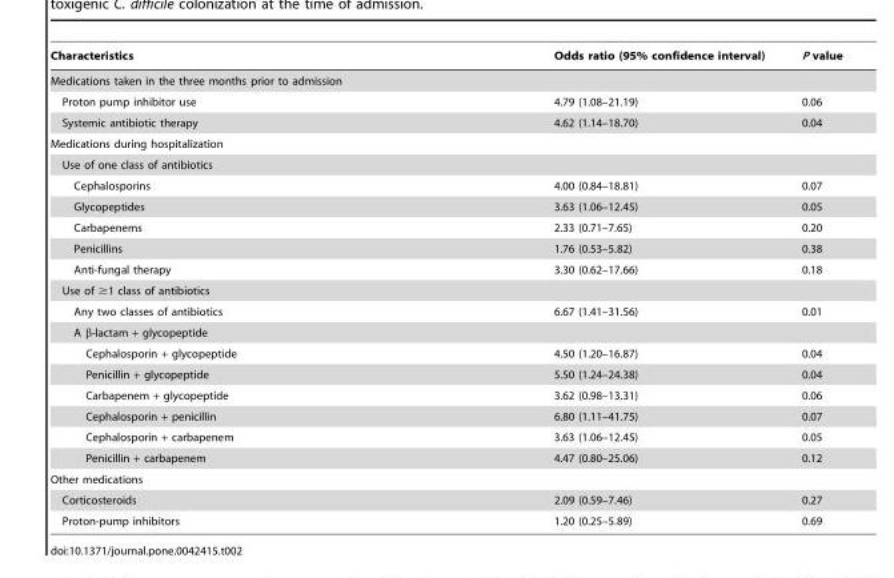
<table><thead><tr><td>Characteristics</td><td>Odds ratio (95% confidence interval)</td><td>P value</td></tr></thead><tbody><tr><td colspan="3">Medications taken in the three months prior to admission</td></tr><tr><td>Proton pump inhibitor use</td><td>4.79 (1.08–21.19)</td><td>0.06</td></tr><tr><td>Systemic antibiotic therapy</td><td>4.62 (1.14–18.70)</td><td>0.04</td></tr><tr><td colspan="3">Medications during hospitalization</td></tr><tr><td colspan="3">Use of one class of antibiotics</td></tr><tr><td>Cephalosporins</td><td>4.00 (0.84–18.81)</td><td>0.07</td></tr><tr><td>Glycopeptides</td><td>3.63 (1.06–12.45)</td><td>0.05</td></tr><tr><td>Carbapenems</td><td>2.33 (0.71–7.65)</td><td>0.20</td></tr><tr><td>Penicillins</td><td>1.76 (0.53–5.82)</td><td>0.38</td></tr><tr><td>Anti-fungal therapy</td><td>3.30 (0.62–17.66)</td><td>0.18</td></tr><tr><td colspan="3">Use of ≥1 class of antibiotics</td></tr><tr><td>Any two classes of antibiotics</td><td>6.67 (1.41–31.56)</td><td>0.01</td></tr><tr><td colspan="3">A β-lactam + glycopeptide</td></tr><tr><td>Cephalosporin + glycopeptide</td><td>4.50 (1.20–16.87)</td><td>0.04</td></tr><tr><td>Penicillin + glycopeptide</td><td>5.50 (1.24–24.38)</td><td>0.04</td></tr><tr><td>Carbapenem + glycopeptide</td><td>3.62 (0.98–13.31)</td><td>0.06</td></tr><tr><td>Cephalosporin + penicillin</td><td>6.80 (1.11–41.75)</td><td>0.07</td></tr><tr><td>Cephalosporin + carbapenem</td><td>3.63 (1.06–12.45)</td><td>0.05</td></tr><tr><td>Penicillin + carbapenem</td><td>4.47 (0.80–25.06)</td><td>0.12</td></tr><tr><td colspan="3">Other medications</td></tr><tr><td>Corticosteroids</td><td>2.09 (0.59–7.46)</td><td>0.27</td></tr><tr><td>Proton-pump inhibitors</td><td>1.20 (0.25–5.89)</td><td>0.69</td></tr></tbody></table>